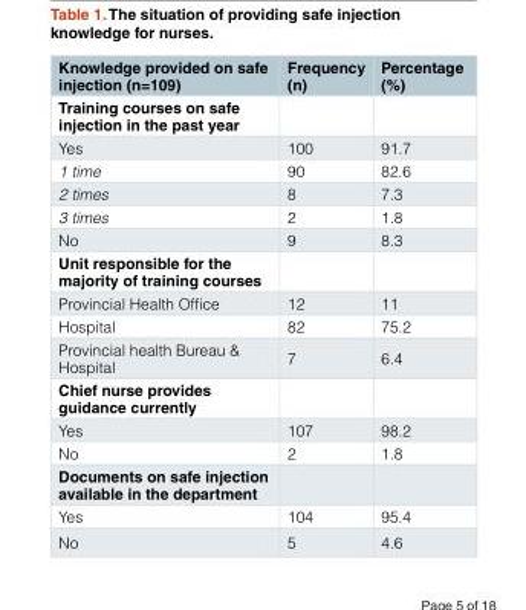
<table><thead><tr><td>Knowledge provided on safe injection (n=109)</td><td>Frequency (n)</td><td>Percentage (%)</td></tr></thead><tbody><tr><td colspan="3">Training courses on safe injection in the past year</td></tr><tr><td>Yes</td><td>100</td><td>91.7</td></tr><tr><td>1 time</td><td>90</td><td>82.6</td></tr><tr><td>2 times</td><td>8</td><td>7.3</td></tr><tr><td>3 times</td><td>2</td><td>1.8</td></tr><tr><td>No</td><td>9</td><td>8.3</td></tr><tr><td colspan="3">Unit responsible for the majority of training courses</td></tr><tr><td>Provincial Health Office</td><td>12</td><td>11</td></tr><tr><td>Hospital</td><td>82</td><td>75.2</td></tr><tr><td>Provincial health Bureau &amp; Hospital</td><td>7</td><td>6.4</td></tr><tr><td colspan="3">Chief nurse provides guidance currently</td></tr><tr><td>Yes</td><td>107</td><td>98.2</td></tr><tr><td>No</td><td>2</td><td>1.8</td></tr><tr><td colspan="3">Documents on safe injection available in the department</td></tr><tr><td>Yes</td><td>104</td><td>95.4</td></tr><tr><td>No</td><td>5</td><td>4.6</td></tr></tbody></table>